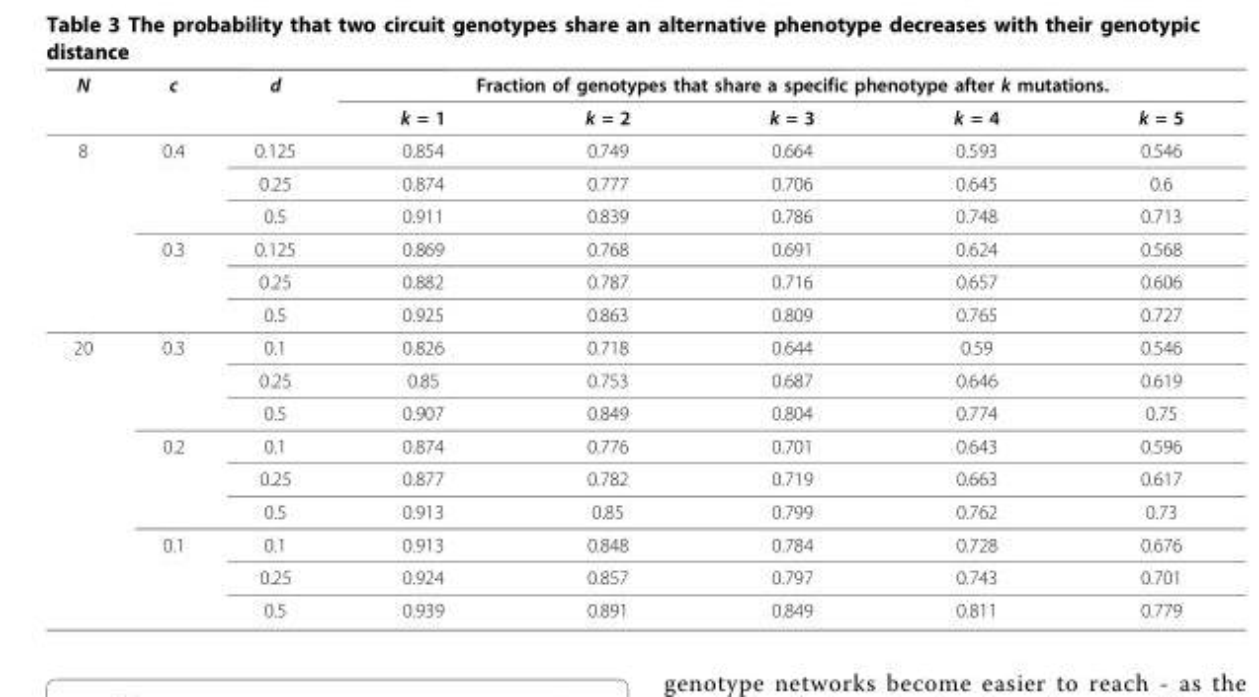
<table><thead><tr><td rowspan="2">N</td><td rowspan="2">c</td><td rowspan="2">d</td><td colspan="5">Fraction of genotypes that share a specific phenotype after k mutations.</td></tr><tr><td>k = 1</td><td>k = 2</td><td>k = 3</td><td>k = 4</td><td>k = 5</td></tr></thead><tbody><tr><td rowspan="6">8</td><td>0.4</td><td>0.125</td><td>0.854</td><td>0.749</td><td>0.664</td><td>0.593</td><td>0.546</td></tr><tr><td></td><td>0.25</td><td>0.874</td><td>0.777</td><td>0.706</td><td>0.645</td><td>0.6</td></tr><tr><td></td><td>0.5</td><td>0.911</td><td>0.839</td><td>0.786</td><td>0.748</td><td>0.713</td></tr><tr><td>0.3</td><td>0.125</td><td>0.869</td><td>0.768</td><td>0.691</td><td>0.624</td><td>0.568</td></tr><tr><td></td><td>0.25</td><td>0.882</td><td>0.787</td><td>0.716</td><td>0.657</td><td>0.606</td></tr><tr><td></td><td>0.5</td><td>0.925</td><td>0.863</td><td>0.809</td><td>0.765</td><td>0.727</td></tr><tr><td rowspan="9">20</td><td>0.3</td><td>0.1</td><td>0.826</td><td>0.718</td><td>0.644</td><td>0.59</td><td>0.546</td></tr><tr><td></td><td>0.25</td><td>0.85</td><td>0.753</td><td>0.687</td><td>0.646</td><td>0.619</td></tr><tr><td></td><td>0.5</td><td>0.907</td><td>0.849</td><td>0.804</td><td>0.774</td><td>0.75</td></tr><tr><td>0.2</td><td>0.1</td><td>0.874</td><td>0.776</td><td>0.701</td><td>0.643</td><td>0.596</td></tr><tr><td></td><td>0.25</td><td>0.877</td><td>0.782</td><td>0.719</td><td>0.663</td><td>0.617</td></tr><tr><td></td><td>0.5</td><td>0.913</td><td>0.85</td><td>0.799</td><td>0.762</td><td>0.73</td></tr><tr><td>0.1</td><td>0.1</td><td>0.913</td><td>0.848</td><td>0.784</td><td>0.728</td><td>0.676</td></tr><tr><td></td><td>0.25</td><td>0.924</td><td>0.857</td><td>0.797</td><td>0.743</td><td>0.701</td></tr><tr><td></td><td>0.5</td><td>0.939</td><td>0.891</td><td>0.849</td><td>0.811</td><td>0.779</td></tr></tbody></table>